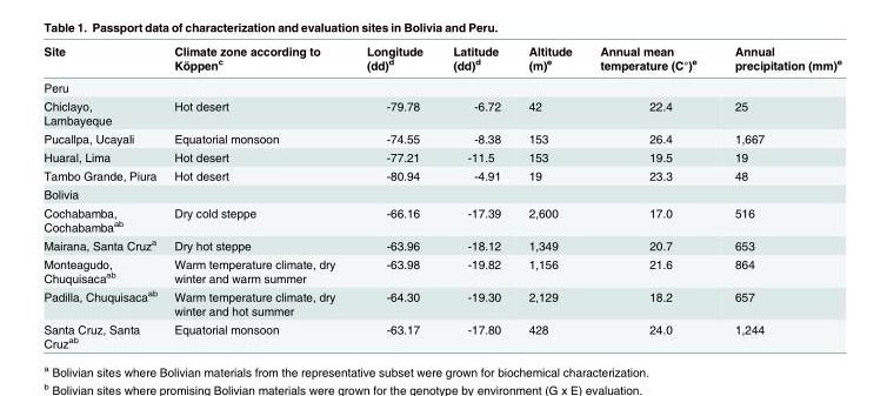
<table><thead><tr><td>Site</td><td>Climate zone according to Köppen<sup>c</sup></td><td>Longitude (dd)<sup>d</sup></td><td>Latitude (dd)<sup>d</sup></td><td>Altitude (m)<sup>e</sup></td><td>Annual mean temperature (C°)<sup>e</sup></td><td>Annual precipitation (mm)<sup>e</sup></td></tr></thead><tbody><tr><td colspan="7">Peru</td></tr><tr><td>Chiclayo, Lambayeque</td><td>Hot desert</td><td>-79.78</td><td>-6.72</td><td>42</td><td>22.4</td><td>25</td></tr><tr><td>Pucallpa, Ucayali</td><td>Equatorial monsoon</td><td>-74.55</td><td>-8.38</td><td>153</td><td>26.4</td><td>1,667</td></tr><tr><td>Huaral, Lima</td><td>Hot desert</td><td>-77.21</td><td>-11.5</td><td>153</td><td>19.5</td><td>19</td></tr><tr><td>Tambo Grande, Piura</td><td>Hot desert</td><td>-80.94</td><td>-4.91</td><td>19</td><td>23.3</td><td>48</td></tr><tr><td colspan="7">Bolivia</td></tr><tr><td>Cochabamba, Cochabamba<sup>ab</sup></td><td>Dry cold steppe</td><td>-66.16</td><td>-17.39</td><td>2,600</td><td>17.0</td><td>516</td></tr><tr><td>Mairana, Santa Cruz<sup>a</sup></td><td>Dry hot steppe</td><td>-63.96</td><td>-18.12</td><td>1,349</td><td>20.7</td><td>653</td></tr><tr><td>Monteagudo, Chuquisaca<sup>ab</sup></td><td>Warm temperature climate, dry winter and warm summer</td><td>-63.98</td><td>-19.82</td><td>1,156</td><td>21.6</td><td>864</td></tr><tr><td>Padilla, Chuquisaca<sup>ab</sup></td><td>Warm temperature climate, dry winter and hot summer</td><td>-64.30</td><td>-19.30</td><td>2,129</td><td>18.2</td><td>657</td></tr><tr><td>Santa Cruz, Santa Cruz<sup>ab</sup></td><td>Equatorial monsoon</td><td>-63.17</td><td>-17.80</td><td>428</td><td>24.0</td><td>1,244</td></tr></tbody></table>